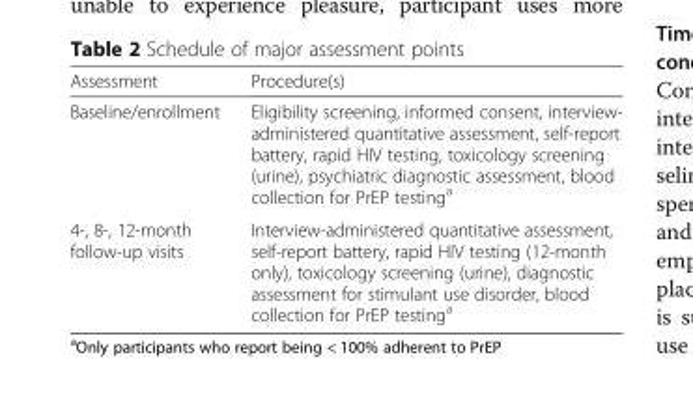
<table><thead><tr><td>Assessment</td><td>Procedure(s)</td></tr></thead><tbody><tr><td>Baseline/enrollment</td><td>Eligibility screening, informed consent, interview- administered quantitative assessment, self-report battery, rapid HIV testing, toxicology screening (urine), psychiatric diagnostic assessment, blood collection for PrEP testing<sup>a</sup></td></tr><tr><td>4-, 8-, 12-month follow-up visits</td><td>Interview-administered quantitative assessment, self-report battery, rapid HIV testing (12-month only), toxicology screening (urine), diagnostic assessment for stimulant use disorder, blood collection for PrEP testing<sup>a</sup></td></tr></tbody></table>